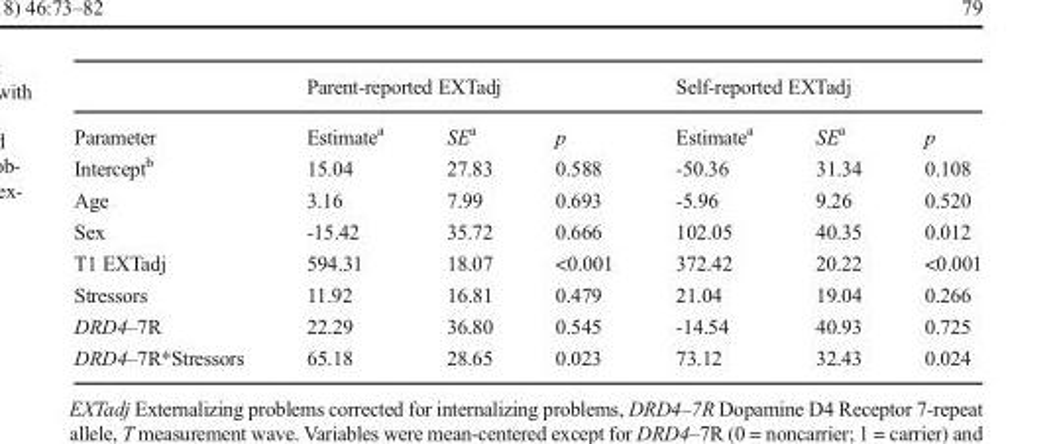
<table><thead><tr><td rowspan="2">Parameter</td><td colspan="3">Parent-reported EXTadj</td><td colspan="3">Self-reported EXTadj</td></tr><tr><td>Estimate<sup>a</sup></td><td>SE<sup>a</sup></td><td>p</td><td>Estimate<sup>a</sup></td><td>SE<sup>a</sup></td><td>p</td></tr></thead><tbody><tr><td>Intercept<sup>b</sup></td><td>15.04</td><td>27.83</td><td>0.588</td><td>-50.36</td><td>31.34</td><td>0.108</td></tr><tr><td>Age</td><td>3.16</td><td>7.99</td><td>0.693</td><td>-5.96</td><td>9.26</td><td>0.520</td></tr><tr><td>Sex</td><td>-15.42</td><td>35.72</td><td>0.666</td><td>102.05</td><td>40.35</td><td>0.012</td></tr><tr><td>T1 EXTadj</td><td>594.31</td><td>18.07</td><td>&lt;0.001</td><td>372.42</td><td>20.22</td><td>&lt;0.001</td></tr><tr><td>Stressors</td><td>11.92</td><td>16.81</td><td>0.479</td><td>21.04</td><td>19.04</td><td>0.266</td></tr><tr><td>DRD4–7R</td><td>22.29</td><td>36.80</td><td>0.545</td><td>-14.54</td><td>40.93</td><td>0.725</td></tr><tr><td>DRD4–7R*Stressors</td><td>65.18</td><td>28.65</td><td>0.023</td><td>73.12</td><td>32.43</td><td>0.024</td></tr></tbody></table>